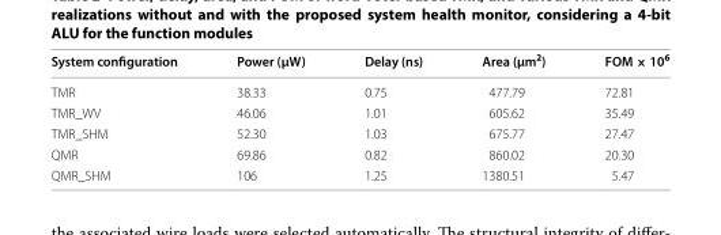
<table><thead><tr><td>System configuration</td><td>Power (µW)</td><td>Delay (ns)</td><td>Area (µm<sup>2</sup>)</td><td>FOM × 10<sup>6</sup></td></tr></thead><tbody><tr><td>TMR</td><td>38.33</td><td>0.75</td><td>477.79</td><td>72.81</td></tr><tr><td>TMR_WV</td><td>46.06</td><td>1.01</td><td>605.62</td><td>35.49</td></tr><tr><td>TMR_SHM</td><td>52.30</td><td>1.03</td><td>675.77</td><td>27.47</td></tr><tr><td>QMR</td><td>69.86</td><td>0.82</td><td>860.02</td><td>20.30</td></tr><tr><td>QMR_SHM</td><td>106</td><td>1.25</td><td>1380.51</td><td>5.47</td></tr></tbody></table>